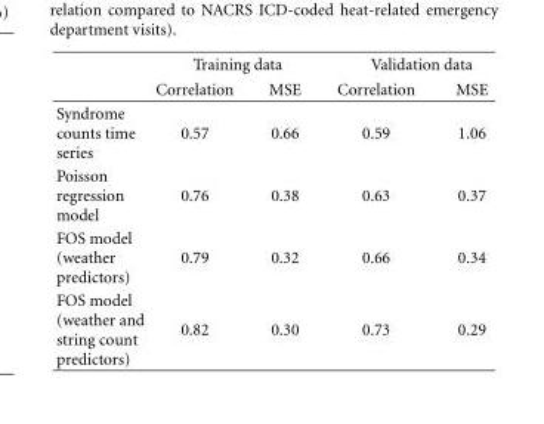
<table><thead><tr><td rowspan="2"></td><td colspan="2">Training data</td><td colspan="2">Validation data</td></tr><tr><td>Correlation</td><td>MSE</td><td>Correlation</td><td>MSE</td></tr></thead><tbody><tr><td>Syndrome counts time series</td><td>0.57</td><td>0.66</td><td>0.59</td><td>1.06</td></tr><tr><td>Poisson regression model</td><td>0.76</td><td>0.38</td><td>0.63</td><td>0.37</td></tr><tr><td>FOS model (weather predictors)</td><td>0.79</td><td>0.32</td><td>0.66</td><td>0.34</td></tr><tr><td>FOS model (weather and string count predictors)</td><td>0.82</td><td>0.30</td><td>0.73</td><td>0.29</td></tr></tbody></table>